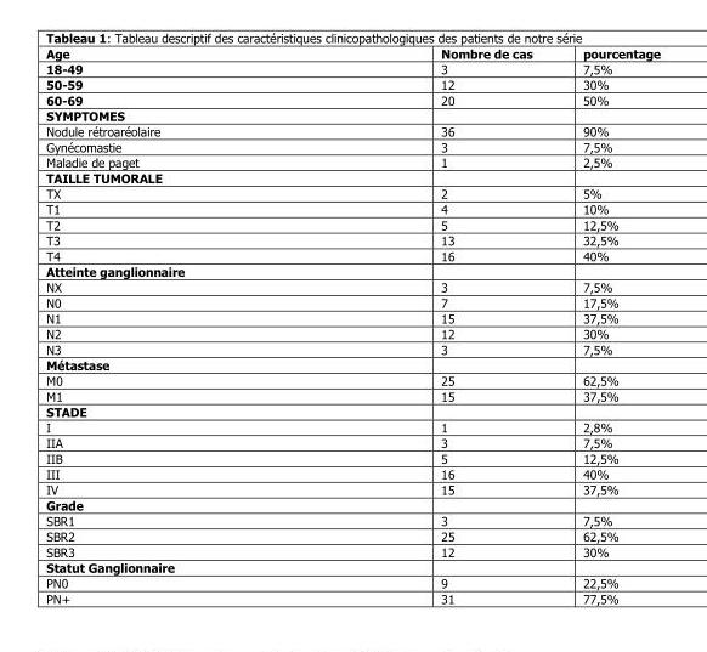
<table><thead><tr><td>Age</td><td>Nombre de cas</td><td>pourcentage</td></tr></thead><tbody><tr><td>18-49</td><td>3</td><td>7,5%</td></tr><tr><td>50-59</td><td>12</td><td>30%</td></tr><tr><td>60-69</td><td>20</td><td>50%</td></tr><tr><td colspan="3">SYMPTOMES</td></tr><tr><td>Nodule rétroaréolaire</td><td>36</td><td>90%</td></tr><tr><td>Gynécomastie</td><td>3</td><td>7,5%</td></tr><tr><td>Maladie de paget</td><td>1</td><td>2,5%</td></tr><tr><td colspan="3">TAILLE TUMORALE</td></tr><tr><td>TX</td><td>2</td><td>5%</td></tr><tr><td>T1</td><td>4</td><td>10%</td></tr><tr><td>T2</td><td>5</td><td>12,5%</td></tr><tr><td>T3</td><td>13</td><td>32,5%</td></tr><tr><td>T4</td><td>16</td><td>40%</td></tr><tr><td colspan="3">Atteinte ganglionnaire</td></tr><tr><td>NX</td><td>3</td><td>7,5%</td></tr><tr><td>N0</td><td>7</td><td>17,5%</td></tr><tr><td>N1</td><td>15</td><td>37,5%</td></tr><tr><td>N2</td><td>12</td><td>30%</td></tr><tr><td>N3</td><td>3</td><td>7,5%</td></tr><tr><td colspan="3">Métastase</td></tr><tr><td>M0</td><td>25</td><td>62,5%</td></tr><tr><td>M1</td><td>15</td><td>37,5%</td></tr><tr><td colspan="3">STADE</td></tr><tr><td>I</td><td>1</td><td>2,8%</td></tr><tr><td>IIA</td><td>3</td><td>7,5%</td></tr><tr><td>IIB</td><td>5</td><td>12,5%</td></tr><tr><td>III</td><td>16</td><td>40%</td></tr><tr><td>IV</td><td>15</td><td>37,5%</td></tr><tr><td colspan="3">Grade</td></tr><tr><td>SBR1</td><td>3</td><td>7,5%</td></tr><tr><td>SBR2</td><td>25</td><td>62,5%</td></tr><tr><td>SBR3</td><td>12</td><td>30%</td></tr><tr><td colspan="3">Statut Ganglionnaire</td></tr><tr><td>PN0</td><td>9</td><td>22,5%</td></tr><tr><td>PN+</td><td>31</td><td>77,5%</td></tr></tbody></table>